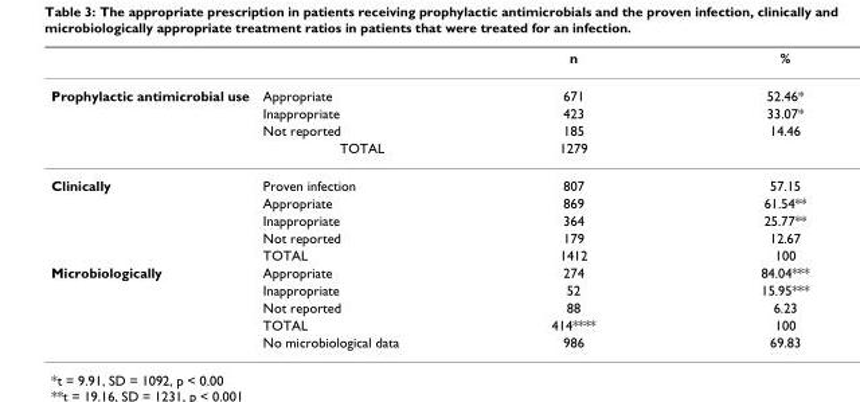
<table><thead><tr><td></td><td></td><td>n</td><td>%</td></tr></thead><tbody><tr><td rowspan="4">Prophylactic antimicrobial use</td><td>Appropriate</td><td>671</td><td>52.46*</td></tr><tr><td>Inappropriate</td><td>423</td><td>33.07*</td></tr><tr><td>Not reported</td><td>185</td><td>14.46</td></tr><tr><td>TOTAL</td><td>1279</td><td></td></tr><tr><td rowspan="5">Clinically</td><td>Proven infection</td><td>807</td><td>57.15</td></tr><tr><td>Appropriate</td><td>869</td><td>61.54**</td></tr><tr><td>Inappropriate</td><td>364</td><td>25.77**</td></tr><tr><td>Not reported</td><td>179</td><td>12.67</td></tr><tr><td>TOTAL</td><td>1412</td><td>100</td></tr><tr><td rowspan="5">Microbiologically</td><td>Appropriate</td><td>274</td><td>84.04***</td></tr><tr><td>Inappropriate</td><td>52</td><td>15.95***</td></tr><tr><td>Not reported</td><td>88</td><td>6.23</td></tr><tr><td>TOTAL</td><td>414****</td><td>100</td></tr><tr><td>No microbiological data</td><td>986</td><td>69.83</td></tr></tbody></table>